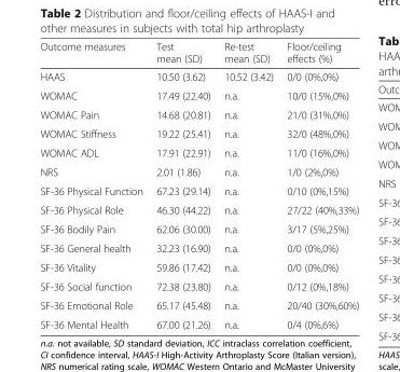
<table><thead><tr><td>Outcome measures</td><td>Test mean (SD)</td><td>Re-test mean (SD)</td><td>Floor/ceiling effects (%)</td></tr></thead><tbody><tr><td>HAAS</td><td>10.50 (3.62)</td><td>10.52 (3.42)</td><td>0/0 (0%,0%)</td></tr><tr><td>WOMAC</td><td>17.49 (22.40)</td><td>n.a.</td><td>10/0 (15%,0%)</td></tr><tr><td>WOMAC Pain</td><td>14.68 (20.81)</td><td>n.a.</td><td>21/0 (31%,0%)</td></tr><tr><td>WOMAC Stiffness</td><td>19.22 (25.41)</td><td>n.a.</td><td>32/0 (48%,0%)</td></tr><tr><td>WOMAC ADL</td><td>17.91 (22.91)</td><td>n.a.</td><td>11/0 (16%,0%)</td></tr><tr><td>NRS</td><td>2.01 (1.86)</td><td>n.a.</td><td>1/0 (2%,0%)</td></tr><tr><td>SF-36 Physical Function</td><td>67.23 (29.14)</td><td>n.a.</td><td>0/10 (0%,15%)</td></tr><tr><td>SF-36 Physical Role</td><td>46.30 (44.22)</td><td>n.a.</td><td>27/22 (40%,33%)</td></tr><tr><td>SF-36 Bodily Pain</td><td>62.06 (30.00)</td><td>n.a.</td><td>3/17 (5%,25%)</td></tr><tr><td>SF-36 General health</td><td>32.23 (16.90)</td><td>n.a.</td><td>0/0 (0%,0%)</td></tr><tr><td>SF-36 Vitality</td><td>59.86 (17.42)</td><td>n.a.</td><td>0/0 (0%,0%)</td></tr><tr><td>SF-36 Social function</td><td>72.38 (23.80)</td><td>n.a.</td><td>0/12 (0%,18%)</td></tr><tr><td>SF-36 Emotional Role</td><td>65.17 (45.48)</td><td>n.a.</td><td>20/40 (30%,60%)</td></tr><tr><td>SF-36 Mental Health</td><td>67.00 (21.26)</td><td>n.a.</td><td>0/4 (0%,6%)</td></tr></tbody></table>